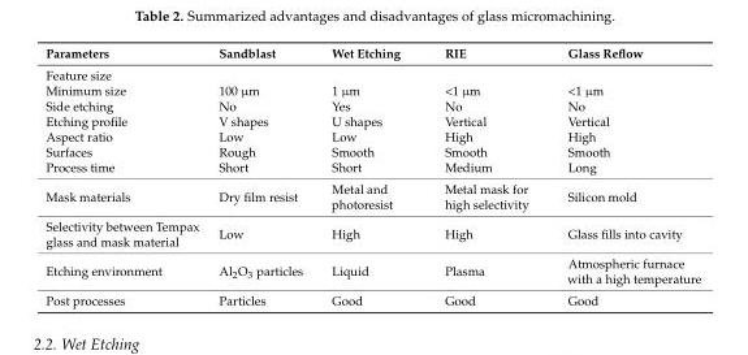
<table><thead><tr><td>Parameters</td><td>Sandblast</td><td>Wet Etching</td><td>RIE</td><td>Glass Reflow</td></tr></thead><tbody><tr><td colspan="5">Feature size</td></tr><tr><td>Minimum size</td><td>100 µm</td><td>1 µm</td><td>&lt;1 µm</td><td>&lt;1 µm</td></tr><tr><td>Side etching</td><td>No</td><td>Yes</td><td>No</td><td>No</td></tr><tr><td>Etching profile</td><td>V shapes</td><td>U shapes</td><td>Vertical</td><td>Vertical</td></tr><tr><td>Aspect ratio</td><td>Low</td><td>Low</td><td>High</td><td>High</td></tr><tr><td>Surfaces</td><td>Rough</td><td>Smooth</td><td>Smooth</td><td>Smooth</td></tr><tr><td>Process time</td><td>Short</td><td>Short</td><td>Medium</td><td>Long</td></tr><tr><td>Mask materials</td><td>Dry film resist</td><td>Metal and photoresist</td><td>Metal mask for high selectivity</td><td>Silicon mold</td></tr><tr><td>Selectivity between Tempax glass and mask material</td><td>Low</td><td>High</td><td>High</td><td>Glass fills into cavity</td></tr><tr><td>Etching environment</td><td>Al<sub>2</sub>O<sub>3</sub> particles</td><td>Liquid</td><td>Plasma</td><td>Atmospheric furnace with a high temperature</td></tr><tr><td>Post processes</td><td>Particles</td><td>Good</td><td>Good</td><td>Good</td></tr></tbody></table>